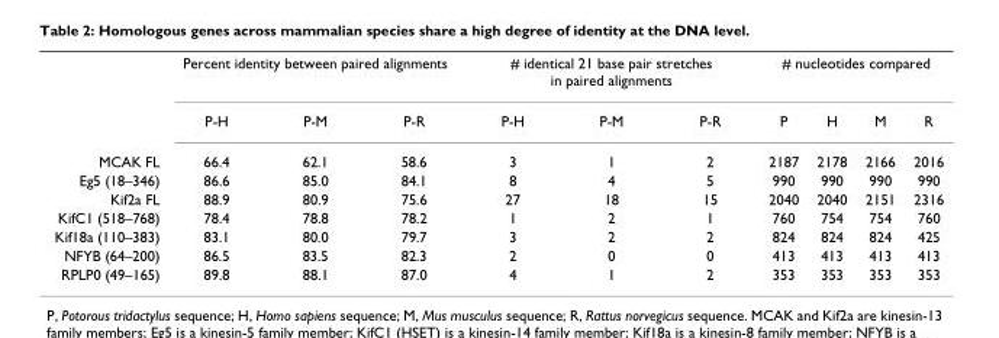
<table><thead><tr><td rowspan="2"></td><td colspan="3">Percent identity between paired alignments</td><td colspan="3"># identical 21 base pair stretches in paired alignments</td><td colspan="4"># nucleotides compared</td></tr><tr><td>P-H</td><td>P-M</td><td>P-R</td><td>P-H</td><td>P-M</td><td>P-R</td><td>P</td><td>H</td><td>M</td><td>R</td></tr></thead><tbody><tr><td>MCAK FL</td><td>66.4</td><td>62.1</td><td>58.6</td><td>3</td><td>1</td><td>2</td><td>2187</td><td>2178</td><td>2166</td><td>2016</td></tr><tr><td>Eg5 (18–346)</td><td>86.6</td><td>85.0</td><td>84.1</td><td>8</td><td>4</td><td>5</td><td>990</td><td>990</td><td>990</td><td>990</td></tr><tr><td>Kif2a FL</td><td>88.9</td><td>80.9</td><td>75.6</td><td>27</td><td>18</td><td>15</td><td>2040</td><td>2040</td><td>2151</td><td>2316</td></tr><tr><td>KifC1 (518–768)</td><td>78.4</td><td>78.8</td><td>78.2</td><td>1</td><td>2</td><td>1</td><td>760</td><td>754</td><td>754</td><td>760</td></tr><tr><td>Kif18a (110–383)</td><td>83.1</td><td>80.0</td><td>79.7</td><td>3</td><td>2</td><td>2</td><td>824</td><td>824</td><td>824</td><td>425</td></tr><tr><td>NFYB (64–200)</td><td>86.5</td><td>83.5</td><td>82.3</td><td>2</td><td>0</td><td>0</td><td>413</td><td>413</td><td>413</td><td>413</td></tr><tr><td>RPLP0 (49–165)</td><td>89.8</td><td>88.1</td><td>87.0</td><td>4</td><td>1</td><td>2</td><td>353</td><td>353</td><td>353</td><td>353</td></tr></tbody></table>